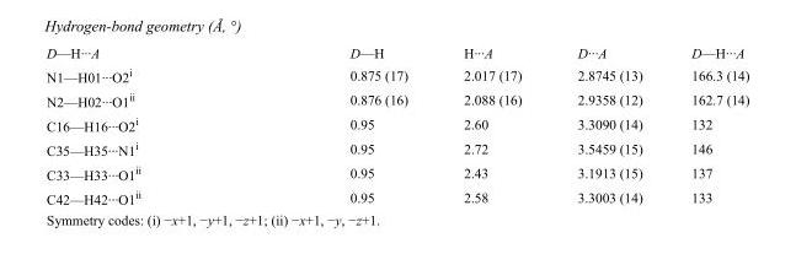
<table><tbody><tr><td>D—H···A</td><td>D—H</td><td>H···A</td><td>D···A</td><td>D—H···A</td></tr><tr><td>N1—H01···O2<sup>i</sup></td><td>0.875 (17)</td><td>2.017 (17)</td><td>2.8745 (13)</td><td>166.3 (14)</td></tr><tr><td>N2—H02···O1<sup>ii</sup></td><td>0.876 (16)</td><td>2.088 (16)</td><td>2.9358 (12)</td><td>162.7 (14)</td></tr><tr><td>C16—H16···O2<sup>i</sup></td><td>0.95</td><td>2.60</td><td>3.3090 (14)</td><td>132</td></tr><tr><td>C35—H35···N1<sup>i</sup></td><td>0.95</td><td>2.72</td><td>3.5459 (15)</td><td>146</td></tr><tr><td>C33—H33···O1<sup>ii</sup></td><td>0.95</td><td>2.43</td><td>3.1913 (15)</td><td>137</td></tr><tr><td>C42—H42···O1<sup>ii</sup></td><td>0.95</td><td>2.58</td><td>3.3003 (14)</td><td>133</td></tr></tbody></table>